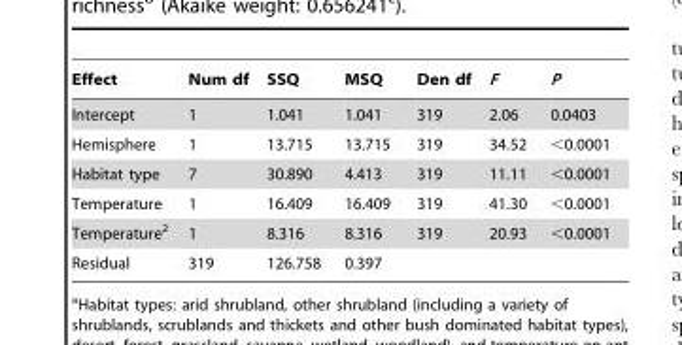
<table><thead><tr><td>Effect</td><td>Num df</td><td>SSQ</td><td>MSQ</td><td>Den df</td><td>F</td><td>P</td></tr></thead><tbody><tr><td>Intercept</td><td>1</td><td>1.041</td><td>1.041</td><td>319</td><td>2.06</td><td>0.0403</td></tr><tr><td>Hemisphere</td><td>1</td><td>13.715</td><td>13.715</td><td>319</td><td>34.52</td><td>&lt;0.0001</td></tr><tr><td>Habitat type</td><td>7</td><td>30.890</td><td>4.413</td><td>319</td><td>11.11</td><td>&lt;0.0001</td></tr><tr><td>Temperature</td><td>1</td><td>16.409</td><td>16.409</td><td>319</td><td>41.30</td><td>&lt;0.0001</td></tr><tr><td>Temperature<sup>2</sup></td><td>1</td><td>8.316</td><td>8.316</td><td>319</td><td>20.93</td><td>&lt;0.0001</td></tr><tr><td>Residual</td><td>319</td><td>126.758</td><td>0.397</td><td></td><td></td><td></td></tr></tbody></table>